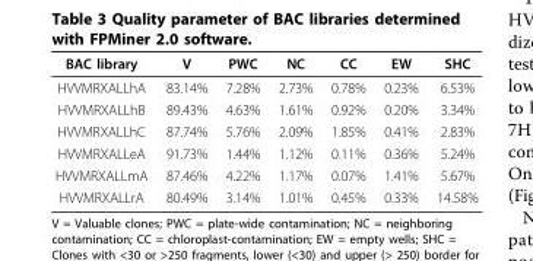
<table><thead><tr><td>BAC library</td><td>V</td><td>PWC</td><td>NC</td><td>CC</td><td>EW</td><td>SHC</td></tr></thead><tbody><tr><td>HVVMRXALLhA</td><td>83.14%</td><td>7.28%</td><td>2.73%</td><td>0.78%</td><td>0.23%</td><td>6.53%</td></tr><tr><td>HVVMRXALLhB</td><td>89.43%</td><td>4.63%</td><td>1.61%</td><td>0.92%</td><td>0.20%</td><td>3.34%</td></tr><tr><td>HVVMRXALLhC</td><td>87.74%</td><td>5.76%</td><td>2.09%</td><td>1.85%</td><td>0.41%</td><td>2.83%</td></tr><tr><td>HVVMRXALLeA</td><td>91.73%</td><td>1.44%</td><td>1.12%</td><td>0.11%</td><td>0.36%</td><td>5.24%</td></tr><tr><td>HVVMRXALLmA</td><td>87.46%</td><td>4.22%</td><td>1.17%</td><td>0.07%</td><td>1.41%</td><td>5.67%</td></tr><tr><td>HVVMRXALLrA</td><td>80.49%</td><td>3.14%</td><td>1.01%</td><td>0.45%</td><td>0.33%</td><td>14.58%</td></tr></tbody></table>